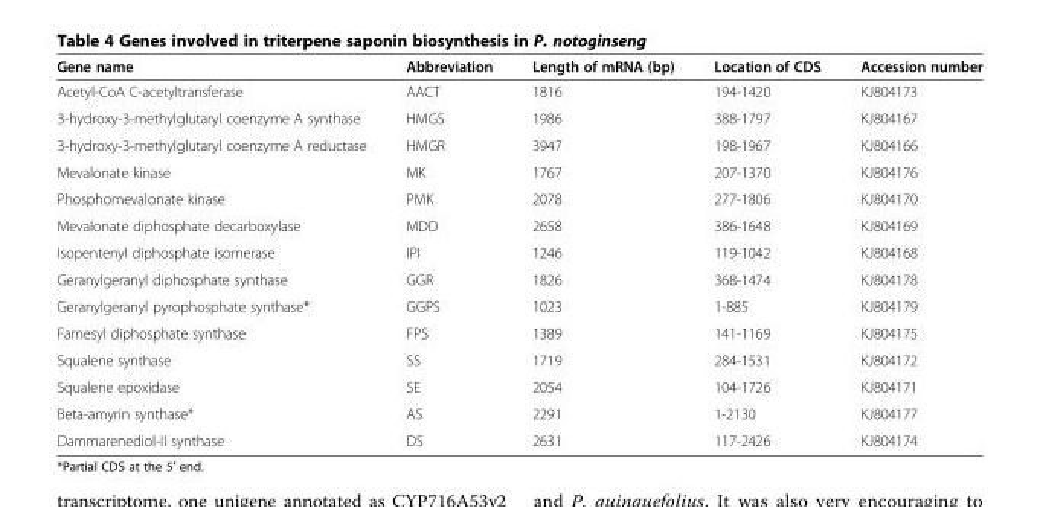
<table><thead><tr><td>Gene name</td><td>Abbreviation</td><td>Length of mRNA (bp)</td><td>Location of CDS</td><td>Accession number</td></tr></thead><tbody><tr><td>Acetyl-CoA C-acetyltransferase</td><td>AACT</td><td>1816</td><td>194-1420</td><td>KJ804173</td></tr><tr><td>3-hydroxy-3-methylglutaryl coenzyme A synthase</td><td>HMGS</td><td>1986</td><td>388-1797</td><td>KJ804167</td></tr><tr><td>3-hydroxy-3-methylglutaryl coenzyme A reductase</td><td>HMGR</td><td>3947</td><td>198-1967</td><td>KJ804166</td></tr><tr><td>Mevalonate kinase</td><td>MK</td><td>1767</td><td>207-1370</td><td>KJ804176</td></tr><tr><td>Phosphomevalonate kinase</td><td>PMK</td><td>2078</td><td>277-1806</td><td>KJ804170</td></tr><tr><td>Mevalonate diphosphate decarboxylase</td><td>MDD</td><td>2658</td><td>386-1648</td><td>KJ804169</td></tr><tr><td>Isopentenyl diphosphate isomerase</td><td>IPI</td><td>1246</td><td>119-1042</td><td>KJ804168</td></tr><tr><td>Geranylgeranyl diphosphate synthase</td><td>GGR</td><td>1826</td><td>368-1474</td><td>KJ804178</td></tr><tr><td>Geranylgeranyl pyrophosphate synthase*</td><td>GGPS</td><td>1023</td><td>1-885</td><td>KJ804179</td></tr><tr><td>Farnesyl diphosphate synthase</td><td>FPS</td><td>1389</td><td>141-1169</td><td>KJ804175</td></tr><tr><td>Squalene synthase</td><td>SS</td><td>1719</td><td>284-1531</td><td>KJ804172</td></tr><tr><td>Squalene epoxidase</td><td>SE</td><td>2054</td><td>104-1726</td><td>KJ804171</td></tr><tr><td>Beta-amyrin synthase*</td><td>AS</td><td>2291</td><td>1-2130</td><td>KJ804177</td></tr><tr><td>Dammarenediol-II synthase</td><td>DS</td><td>2631</td><td>117-2426</td><td>KJ804174</td></tr></tbody></table>